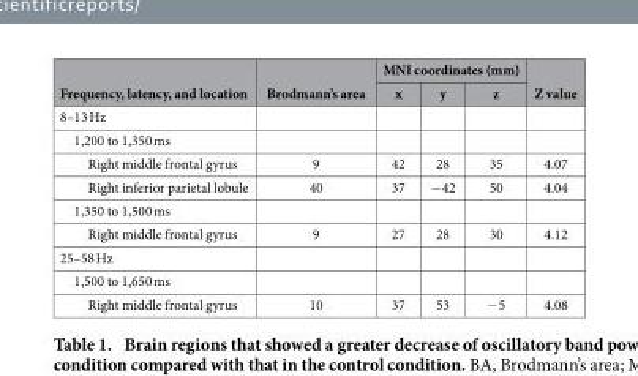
<table><thead><tr><td rowspan="2">Frequency, latency, and location</td><td rowspan="2">Brodmann’s area</td><td colspan="3">MNI coordinates (mm)</td><td rowspan="2">Z value</td></tr><tr><td>x</td><td>y</td><td>z</td></tr></thead><tbody><tr><td colspan="6">8–13 Hz</td></tr><tr><td colspan="6">1,200 to 1,350 ms</td></tr><tr><td>Right middle frontal gyrus</td><td>9</td><td>42</td><td>28</td><td>35</td><td>4.07</td></tr><tr><td>Right inferior parietal lobule</td><td>40</td><td>37</td><td>− 42</td><td>50</td><td>4.04</td></tr><tr><td colspan="6">1,350 to 1,500 ms</td></tr><tr><td>Right middle frontal gyrus</td><td>9</td><td>27</td><td>28</td><td>30</td><td>4.12</td></tr><tr><td colspan="6">25–58 Hz</td></tr><tr><td colspan="6">1,500 to 1,650 ms</td></tr><tr><td>Right middle frontal gyrus</td><td>10</td><td>37</td><td>53</td><td>− 5</td><td>4.08</td></tr></tbody></table>